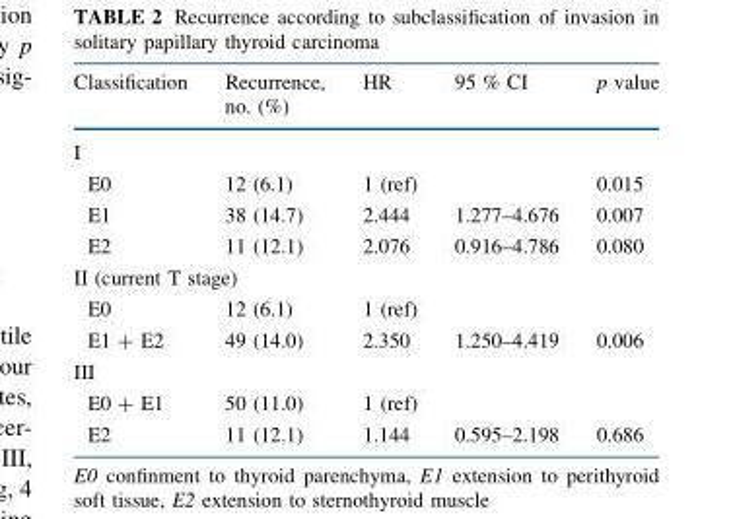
<table><thead><tr><td>Classification</td><td>Recurrence, no. (%)</td><td>HR</td><td>95 % CI</td><td>p value</td></tr></thead><tbody><tr><td colspan="5">I</td></tr><tr><td>E0</td><td>12 (6.1)</td><td>1 (ref)</td><td></td><td>0.015</td></tr><tr><td>E1</td><td>38 (14.7)</td><td>2.444</td><td>1.277–4.676</td><td>0.007</td></tr><tr><td>E2</td><td>11 (12.1)</td><td>2.076</td><td>0.916–4.786</td><td>0.080</td></tr><tr><td colspan="5">II (current T stage)</td></tr><tr><td>E0</td><td>12 (6.1)</td><td>1 (ref)</td><td></td><td></td></tr><tr><td>E1 + E2</td><td>49 (14.0)</td><td>2.350</td><td>1.250–4.419</td><td>0.006</td></tr><tr><td colspan="5">III</td></tr><tr><td>E0 + E1</td><td>50 (11.0)</td><td>1 (ref)</td><td></td><td></td></tr><tr><td>E2</td><td>11 (12.1)</td><td>1.144</td><td>0.595–2.198</td><td>0.686</td></tr></tbody></table>